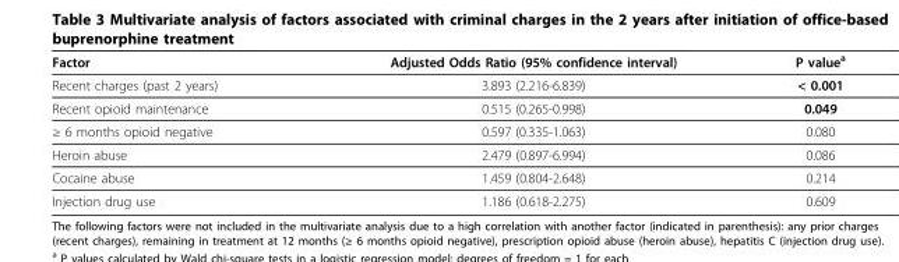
<table><thead><tr><td>Factor</td><td>Adjusted Odds Ratio (95% confidence interval)</td><td>P value<sup>a</sup></td></tr></thead><tbody><tr><td>Recent charges (past 2 years)</td><td>3.893 (2.216-6.839)</td><td>&lt; 0.001</td></tr><tr><td>Recent opioid maintenance</td><td>0.515 (0.265-0.998)</td><td>0.049</td></tr><tr><td>≥ 6 months opioid negative</td><td>0.597 (0.335-1.063)</td><td>0.080</td></tr><tr><td>Heroin abuse</td><td>2.479 (0.897-6.994)</td><td>0.086</td></tr><tr><td>Cocaine abuse</td><td>1.459 (0.804-2.648)</td><td>0.214</td></tr><tr><td>Injection drug use</td><td>1.186 (0.618-2.275)</td><td>0.609</td></tr></tbody></table>